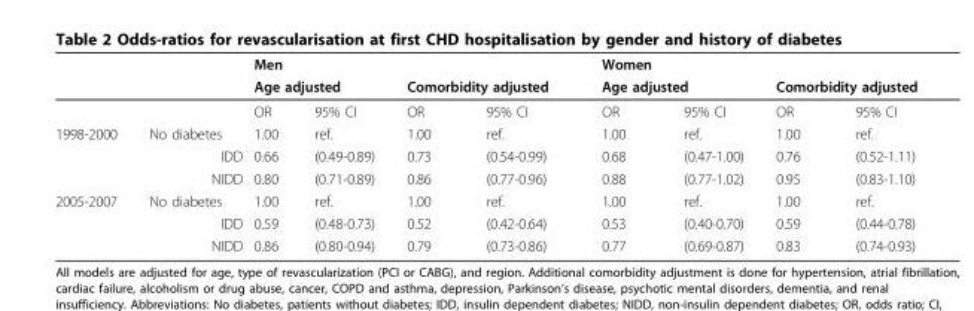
<table><thead><tr><td rowspan="2"></td><td rowspan="2"></td><td>Men</td><td></td><td></td><td></td><td>Women</td><td></td><td></td><td></td></tr><tr><td colspan="2">Age adjusted</td><td colspan="2">Comorbidity adjusted</td><td colspan="2">Age adjusted</td><td colspan="2">Comorbidity adjusted</td></tr></thead><tbody><tr><td></td><td></td><td>OR</td><td>95% CI</td><td>OR</td><td>95% CI</td><td>OR</td><td>95% CI</td><td>OR</td><td>95% CI</td></tr><tr><td rowspan="3">1998-2000</td><td>No diabetes</td><td>1.00</td><td>ref.</td><td>1.00</td><td>ref.</td><td>1.00</td><td>ref.</td><td>1.00</td><td>ref.</td></tr><tr><td>IDD</td><td>0.66</td><td>(0.49-0.89)</td><td>0.73</td><td>(0.54-0.99)</td><td>0.68</td><td>(0.47-1.00)</td><td>0.76</td><td>(0.52-1.11)</td></tr><tr><td>NIDD</td><td>0.80</td><td>(0.71-0.89)</td><td>0.86</td><td>(0.77-0.96)</td><td>0.88</td><td>(0.77-1.02)</td><td>0.95</td><td>(0.83-1.10)</td></tr><tr><td rowspan="3">2005-2007</td><td>No diabetes</td><td>1.00</td><td>ref.</td><td>1.00</td><td>ref.</td><td>1.00</td><td>ref.</td><td>1.00</td><td>ref.</td></tr><tr><td>IDD</td><td>0.59</td><td>(0.48-0.73)</td><td>0.52</td><td>(0.42-0.64)</td><td>0.53</td><td>(0.40-0.70)</td><td>0.59</td><td>(0.44-0.78)</td></tr><tr><td>NIDD</td><td>0.86</td><td>(0.80-0.94)</td><td>0.79</td><td>(0.73-0.86)</td><td>0.77</td><td>(0.69-0.87)</td><td>0.83</td><td>(0.74-0.93)</td></tr></tbody></table>